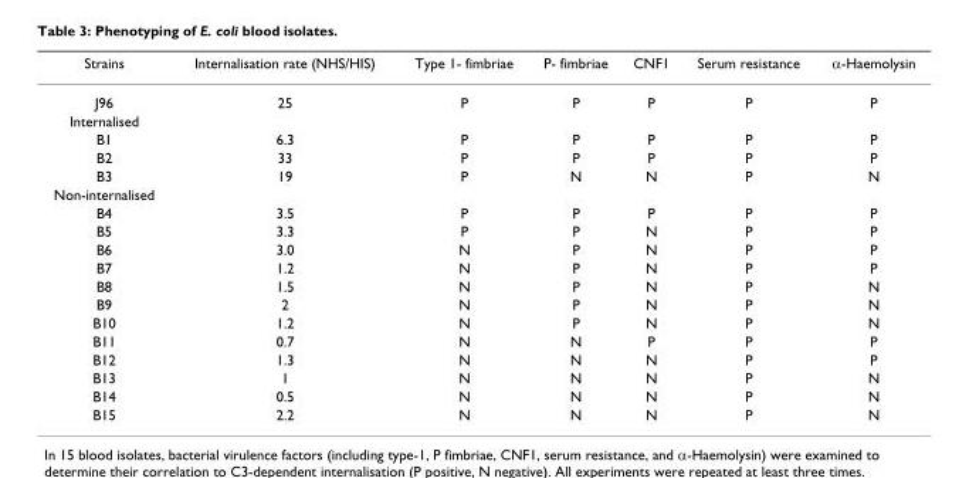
<table><thead><tr><td>Strains</td><td>Internalisation rate (NHS/HIS)</td><td>Type 1- fimbriae</td><td>P- fimbriae</td><td>CNF1</td><td>Serum resistance</td><td>α-Haemolysin</td></tr></thead><tbody><tr><td>J96</td><td>25</td><td>P</td><td>P</td><td>P</td><td>P</td><td>P</td></tr><tr><td colspan="7">Internalised</td></tr><tr><td>B1</td><td>6.3</td><td>P</td><td>P</td><td>P</td><td>P</td><td>P</td></tr><tr><td>B2</td><td>33</td><td>P</td><td>P</td><td>P</td><td>P</td><td>P</td></tr><tr><td>B3</td><td>19</td><td>P</td><td>N</td><td>N</td><td>P</td><td>N</td></tr><tr><td colspan="7">Non-internalised</td></tr><tr><td>B4</td><td>3.5</td><td>P</td><td>P</td><td>P</td><td>P</td><td>P</td></tr><tr><td>B5</td><td>3.3</td><td>P</td><td>P</td><td>N</td><td>P</td><td>P</td></tr><tr><td>B6</td><td>3.0</td><td>N</td><td>P</td><td>N</td><td>P</td><td>P</td></tr><tr><td>B7</td><td>1.2</td><td>N</td><td>P</td><td>N</td><td>P</td><td>P</td></tr><tr><td>B8</td><td>1.5</td><td>N</td><td>P</td><td>N</td><td>P</td><td>N</td></tr><tr><td>B9</td><td>2</td><td>N</td><td>P</td><td>N</td><td>P</td><td>N</td></tr><tr><td>B10</td><td>1.2</td><td>N</td><td>P</td><td>N</td><td>P</td><td>N</td></tr><tr><td>B11</td><td>0.7</td><td>N</td><td>N</td><td>P</td><td>P</td><td>P</td></tr><tr><td>B12</td><td>1.3</td><td>N</td><td>N</td><td>N</td><td>P</td><td>P</td></tr><tr><td>B13</td><td>1</td><td>N</td><td>N</td><td>N</td><td>P</td><td>N</td></tr><tr><td>B14</td><td>0.5</td><td>N</td><td>N</td><td>N</td><td>P</td><td>N</td></tr><tr><td>B15</td><td>2.2</td><td>N</td><td>N</td><td>N</td><td>P</td><td>N</td></tr></tbody></table>